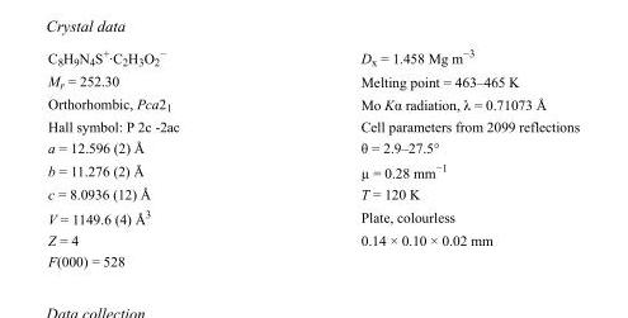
<table><tbody><tr><td>C<sub>8</sub>H<sub>9</sub>N<sub>4</sub>S<sup>+</sup>·C<sub>2</sub>H<sub>3</sub>O<sub>2</sub> <sup>−</sup></td><td>D<sub>x</sub> = 1.458 Mg m<sup>−3</sup></td></tr><tr><td>M<sub>r</sub> = 252.30</td><td>Melting point = 463–465 K</td></tr><tr><td>Orthorhombic, Pca2<sub>1</sub></td><td>Mo Kα radiation, λ = 0.71073 Å</td></tr><tr><td>Hall symbol: P 2c -2ac</td><td>Cell parameters from 2099 reflections</td></tr><tr><td>a = 12.596 (2) Å</td><td>θ = 2.9–27.5°</td></tr><tr><td>b = 11.276 (2) Å</td><td>µ = 0.28 mm<sup>−1</sup></td></tr><tr><td>c = 8.0936 (12) Å</td><td>T = 120 K</td></tr><tr><td>V = 1149.6 (4) Å<sup>3</sup></td><td>Plate, colourless</td></tr><tr><td>Z = 4</td><td>0.14 × 0.10 × 0.02 mm</td></tr><tr><td>F(000) = 528</td><td></td></tr></tbody></table>